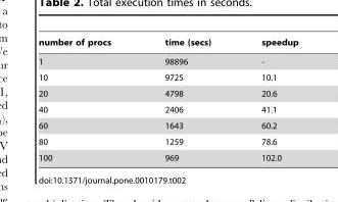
<table><thead><tr><td>number of procs</td><td>time (secs)</td><td>speedup</td></tr></thead><tbody><tr><td>1</td><td>98896</td><td>-</td></tr><tr><td>10</td><td>9725</td><td>10.1</td></tr><tr><td>20</td><td>4798</td><td>20.6</td></tr><tr><td>40</td><td>2406</td><td>41.1</td></tr><tr><td>60</td><td>1643</td><td>60.2</td></tr><tr><td>80</td><td>1259</td><td>78.6</td></tr><tr><td>100</td><td>969</td><td>102.0</td></tr></tbody></table>